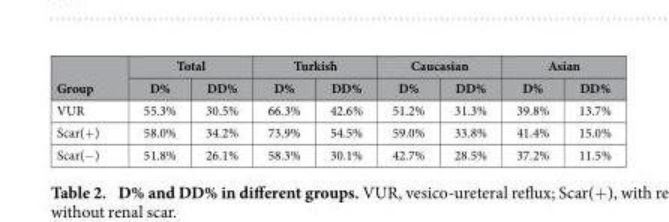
<table><thead><tr><td rowspan="2">Group</td><td colspan="2">Total</td><td colspan="2">Turkish</td><td colspan="2">Caucasian</td><td colspan="2">Asian</td></tr><tr><td>D%</td><td>DD%</td><td>D%</td><td>DD%</td><td>D%</td><td>DD%</td><td>D%</td><td>DD%</td></tr></thead><tbody><tr><td>VUR</td><td>55.3%</td><td>30.5%</td><td>66.3%</td><td>42.6%</td><td>51.2%</td><td>31.3%</td><td>39.8%</td><td>13.7%</td></tr><tr><td>Scar(+ )</td><td>58.0%</td><td>34.2%</td><td>73.9%</td><td>54.5%</td><td>59.0%</td><td>33.8%</td><td>41.4%</td><td>15.0%</td></tr><tr><td>Scar(− )</td><td>51.8%</td><td>26.1%</td><td>58.3%</td><td>30.1%</td><td>42.7%</td><td>28.5%</td><td>37.2%</td><td>11.5%</td></tr></tbody></table>